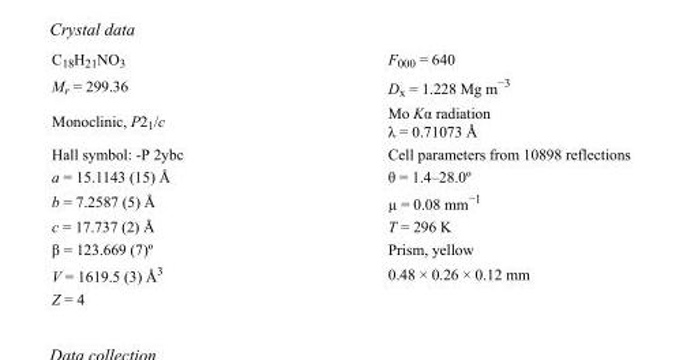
<table><tbody><tr><td>C<sub>18</sub>H<sub>21</sub>NO<sub>3</sub></td><td>F000 = 640</td></tr><tr><td>M<sub>r</sub> = 299.36</td><td>D<sub>x</sub> = 1.228 Mg m<sup>−3</sup></td></tr><tr><td>Monoclinic, P2<sub>1</sub>/c</td><td>Mo Kα radiation λ = 0.71073 Å</td></tr><tr><td>Hall symbol: -P 2ybc</td><td>Cell parameters from 10898 reflections</td></tr><tr><td>a = 15.1143 (15) Å</td><td>θ = 1.4–28.0º</td></tr><tr><td>b = 7.2587 (5) Å</td><td>µ = 0.08 mm<sup>−1</sup></td></tr><tr><td>c = 17.737 (2) Å</td><td>T = 296 K</td></tr><tr><td>β = 123.669 (7)º</td><td>Prism, yellow</td></tr><tr><td>V = 1619.5 (3) Å<sup>3</sup></td><td>0.48 × 0.26 × 0.12 mm</td></tr><tr><td>Z = 4</td><td></td></tr></tbody></table>